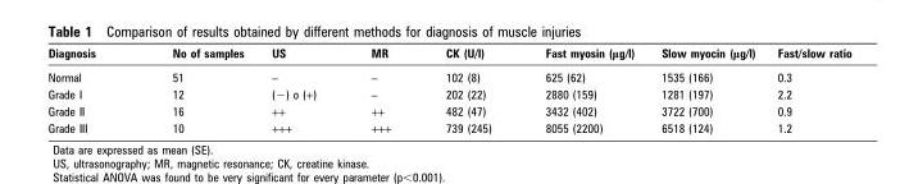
<table><thead><tr><td>Diagnosis</td><td>No of samples</td><td>US</td><td>MR</td><td>CK (U/l)</td><td>Fast myosin (μg/l)</td><td>Slow myocin (μg/l)</td><td>Fast/slow ratio</td></tr></thead><tbody><tr><td>Normal</td><td>51</td><td>–</td><td>–</td><td>102 (8)</td><td>625 (62)</td><td>1535 (166)</td><td>0.3</td></tr><tr><td>Grade I</td><td>12</td><td>(−) o (+)</td><td>–</td><td>202 (22)</td><td>2880 (159)</td><td>1281 (197)</td><td>2.2</td></tr><tr><td>Grade II</td><td>16</td><td>++</td><td>++</td><td>482 (47)</td><td>3432 (402)</td><td>3722 (700)</td><td>0.9</td></tr><tr><td>Grade III</td><td>10</td><td>+++</td><td>+++</td><td>739 (245)</td><td>8055 (2200)</td><td>6518 (124)</td><td>1.2</td></tr></tbody></table>